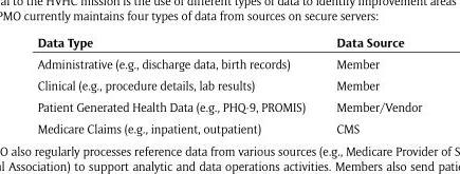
<table><thead><tr><td>Data Type</td><td>Data Source</td></tr></thead><tbody><tr><td>Administrative (e.g., discharge data, birth records)</td><td>Member</td></tr><tr><td>Clinical (e.g., procedure details, lab results)</td><td>Member</td></tr><tr><td>Patient Generated Health Data (e.g., PHQ-9, PROMIS)</td><td>Member/Vendor</td></tr><tr><td>Medicare Claims (e.g., inpatient, outpatient)</td><td>CMS</td></tr></tbody></table>